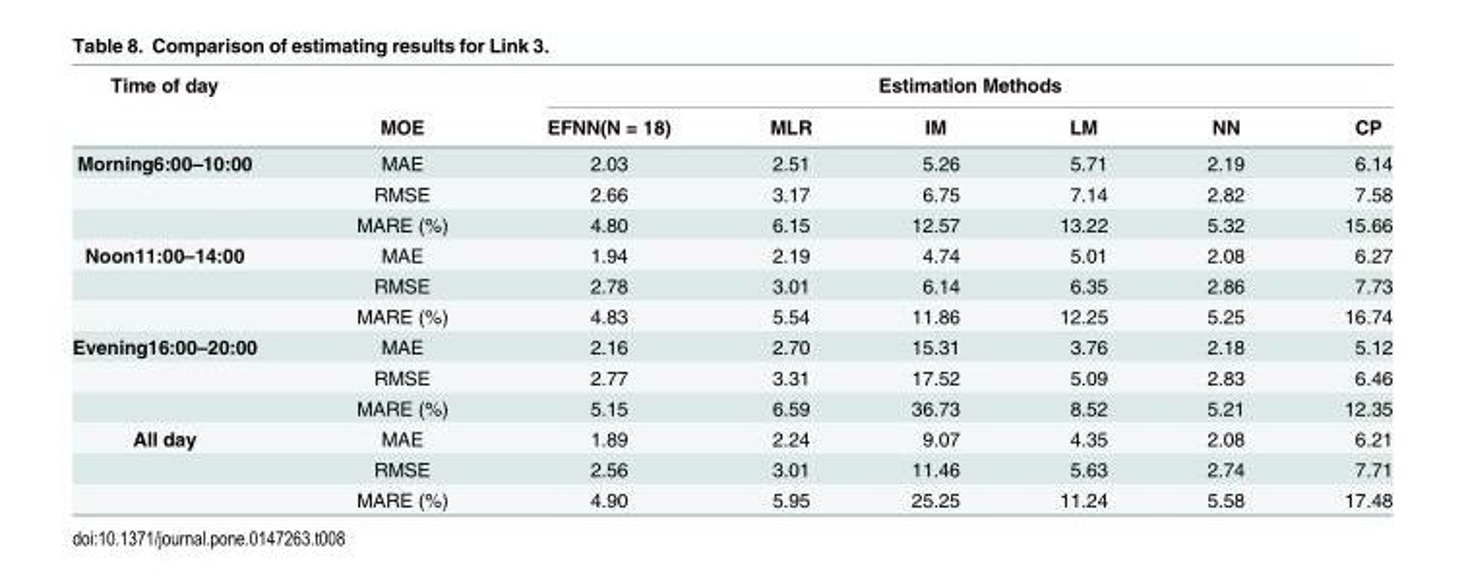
<table><thead><tr><td rowspan="2">Time of day</td><td rowspan="2">MOE</td><td colspan="6">Estimation Methods</td></tr><tr><td>EFNN(N = 18)</td><td>MLR</td><td>IM</td><td>LM</td><td>NN</td><td>CP</td></tr></thead><tbody><tr><td rowspan="3">Morning6:00–10:00</td><td>MAE</td><td>2.03</td><td>2.51</td><td>5.26</td><td>5.71</td><td>2.19</td><td>6.14</td></tr><tr><td>RMSE</td><td>2.66</td><td>3.17</td><td>6.75</td><td>7.14</td><td>2.82</td><td>7.58</td></tr><tr><td>MARE (%)</td><td>4.80</td><td>6.15</td><td>12.57</td><td>13.22</td><td>5.32</td><td>15.66</td></tr><tr><td rowspan="3">Noon11:00–14:00</td><td>MAE</td><td>1.94</td><td>2.19</td><td>4.74</td><td>5.01</td><td>2.08</td><td>6.27</td></tr><tr><td>RMSE</td><td>2.78</td><td>3.01</td><td>6.14</td><td>6.35</td><td>2.86</td><td>7.73</td></tr><tr><td>MARE (%)</td><td>4.83</td><td>5.54</td><td>11.86</td><td>12.25</td><td>5.25</td><td>16.74</td></tr><tr><td rowspan="3">Evening16:00–20:00</td><td>MAE</td><td>2.16</td><td>2.70</td><td>15.31</td><td>3.76</td><td>2.18</td><td>5.12</td></tr><tr><td>RMSE</td><td>2.77</td><td>3.31</td><td>17.52</td><td>5.09</td><td>2.83</td><td>6.46</td></tr><tr><td>MARE (%)</td><td>5.15</td><td>6.59</td><td>36.73</td><td>8.52</td><td>5.21</td><td>12.35</td></tr><tr><td rowspan="3">All day</td><td>MAE</td><td>1.89</td><td>2.24</td><td>9.07</td><td>4.35</td><td>2.08</td><td>6.21</td></tr><tr><td>RMSE</td><td>2.56</td><td>3.01</td><td>11.46</td><td>5.63</td><td>2.74</td><td>7.71</td></tr><tr><td>MARE (%)</td><td>4.90</td><td>5.95</td><td>25.25</td><td>11.24</td><td>5.58</td><td>17.48</td></tr></tbody></table>